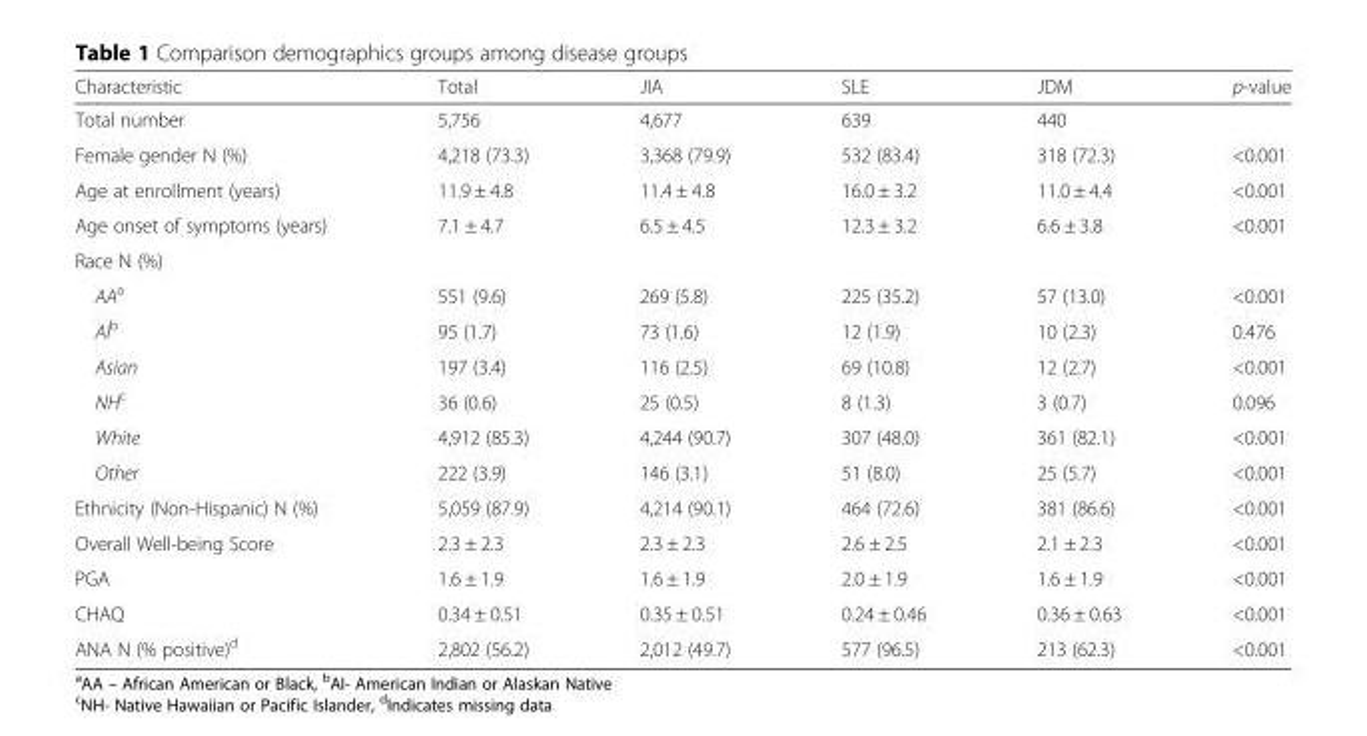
<table><thead><tr><td>Characteristic</td><td>Total</td><td>JIA</td><td>SLE</td><td>JDM</td><td>p-value</td></tr></thead><tbody><tr><td>Total number</td><td>5,756</td><td>4,677</td><td>639</td><td>440</td><td></td></tr><tr><td>Female gender N (%)</td><td>4,218 (73.3)</td><td>3,368 (79.9)</td><td>532 (83.4)</td><td>318 (72.3)</td><td>&lt;0.001</td></tr><tr><td>Age at enrollment (years)</td><td>11.9 ± 4.8</td><td>11.4 ± 4.8</td><td>16.0 ± 3.2</td><td>11.0 ± 4.4</td><td>&lt;0.001</td></tr><tr><td>Age onset of symptoms (years)</td><td>7.1 ± 4.7</td><td>6.5 ± 4.5</td><td>12.3 ± 3.2</td><td>6.6 ± 3.8</td><td>&lt;0.001</td></tr><tr><td colspan="6">Race N (%)</td></tr><tr><td>AA<sup>a</sup></td><td>551 (9.6)</td><td>269 (5.8)</td><td>225 (35.2)</td><td>57 (13.0)</td><td>&lt;0.001</td></tr><tr><td>AI<sup>b</sup></td><td>95 (1.7)</td><td>73 (1.6)</td><td>12 (1.9)</td><td>10 (2.3)</td><td>0.476</td></tr><tr><td>Asian</td><td>197 (3.4)</td><td>116 (2.5)</td><td>69 (10.8)</td><td>12 (2.7)</td><td>&lt;0.001</td></tr><tr><td>NH<sup>c</sup></td><td>36 (0.6)</td><td>25 (0.5)</td><td>8 (1.3)</td><td>3 (0.7)</td><td>0.096</td></tr><tr><td>White</td><td>4,912 (85.3)</td><td>4,244 (90.7)</td><td>307 (48.0)</td><td>361 (82.1)</td><td>&lt;0.001</td></tr><tr><td>Other</td><td>222 (3.9)</td><td>146 (3.1)</td><td>51 (8.0)</td><td>25 (5.7)</td><td>&lt;0.001</td></tr><tr><td>Ethnicity (Non-Hispanic) N (%)</td><td>5,059 (87.9)</td><td>4,214 (90.1)</td><td>464 (72.6)</td><td>381 (86.6)</td><td>&lt;0.001</td></tr><tr><td>Overall Well-being Score</td><td>2.3 ± 2.3</td><td>2.3 ± 2.3</td><td>2.6 ± 2.5</td><td>2.1 ± 2.3</td><td>&lt;0.001</td></tr><tr><td>PGA</td><td>1.6 ± 1.9</td><td>1.6 ± 1.9</td><td>2.0 ± 1.9</td><td>1.6 ± 1.9</td><td>&lt;0.001</td></tr><tr><td>CHAQ</td><td>0.34 ± 0.51</td><td>0.35 ± 0.51</td><td>0.24 ± 0.46</td><td>0.36 ± 0.63</td><td>&lt;0.001</td></tr><tr><td>ANA N (% positive)<sup>d</sup></td><td>2,802 (56.2)</td><td>2,012 (49.7)</td><td>577 (96.5)</td><td>213 (62.3)</td><td>&lt;0.001</td></tr></tbody></table>